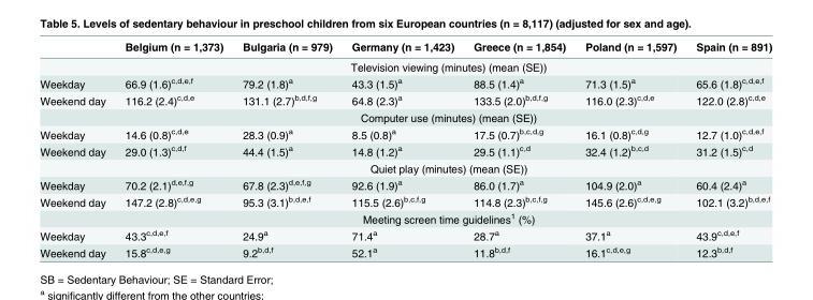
<table><thead><tr><td></td><td>Belgium (n = 1,373)</td><td>Bulgaria (n = 979)</td><td>Germany (n = 1,423)</td><td>Greece (n = 1,854)</td><td>Poland (n = 1,597)</td><td>Spain (n = 891)</td></tr></thead><tbody><tr><td></td><td colspan="6">Television viewing (minutes) (mean (SE))</td></tr><tr><td>Weekday</td><td>66.9 (1.6)<sup>c,d,e,f</sup></td><td>79.2 (1.8)<sup>a</sup></td><td>43.3 (1.5)<sup>a</sup></td><td>88.5 (1.4)<sup>a</sup></td><td>71.3 (1.5)<sup>a</sup></td><td>65.6 (1.8)<sup>c,d,e,f</sup></td></tr><tr><td rowspan="2">Weekend day</td><td>116.2 (2.4)<sup>c,d,e</sup></td><td>131.1 (2.7)<sup>b,d,f,g</sup></td><td>64.8 (2.3)<sup>a</sup></td><td>133.5 (2.0)<sup>b,d,f,g</sup></td><td>116.0 (2.3)<sup>c,d,e</sup></td><td>122.0 (2.8)<sup>c,d,e</sup></td></tr><tr><td colspan="6">Computer use (minutes) (mean (SE))</td></tr><tr><td>Weekday</td><td>14.6 (0.8)<sup>c,d,e</sup></td><td>28.3 (0.9)<sup>a</sup></td><td>8.5 (0.8)<sup>a</sup></td><td>17.5 (0.7)<sup>b,c,d,g</sup></td><td>16.1 (0.8)<sup>c,d,g</sup></td><td>12.7 (1.0)<sup>c,d,e,f</sup></td></tr><tr><td rowspan="2">Weekend day</td><td>29.0 (1.3)<sup>c,d,f</sup></td><td>44.4 (1.5)<sup>a</sup></td><td>14.8 (1.2)<sup>a</sup></td><td>29.5 (1.1)<sup>c,d</sup></td><td>32.4 (1.2)<sup>b,c,d</sup></td><td>31.2 (1.5)<sup>c,d</sup></td></tr><tr><td colspan="6">Quiet play (minutes) (mean (SE))</td></tr><tr><td>Weekday</td><td>70.2 (2.1)<sup>d,e,f,g</sup></td><td>67.8 (2.3)<sup>d,e,f,g</sup></td><td>92.6 (1.9)<sup>a</sup></td><td>86.0 (1.7)<sup>a</sup></td><td>104.9 (2.0)<sup>a</sup></td><td>60.4 (2.4)<sup>a</sup></td></tr><tr><td rowspan="2">Weekend day</td><td>147.2 (2.8)<sup>c,d,e,g</sup></td><td>95.3 (3.1)<sup>b,d,e,f</sup></td><td>115.5 (2.6)<sup>b,c,f,g</sup></td><td>114.8 (2.3)<sup>b,c,f,g</sup></td><td>145.6 (2.6)<sup>c,d,e,g</sup></td><td>102.1 (3.2)<sup>b,d,e,f</sup></td></tr><tr><td colspan="6">Meeting screen time guidelines<sup>1</sup> (%)</td></tr><tr><td>Weekday</td><td>43.3<sup>c,d,e,f</sup></td><td>24.9<sup>a</sup></td><td>71.4<sup>a</sup></td><td>28.7<sup>a</sup></td><td>37.1<sup>a</sup></td><td>43.9<sup>c,d,e,f</sup></td></tr><tr><td>Weekend day</td><td>15.8<sup>c,d,e,g</sup></td><td>9.2<sup>b,d,f</sup></td><td>52.1<sup>a</sup></td><td>11.8<sup>b,d,f</sup></td><td>16.1<sup>c,d,e,g</sup></td><td>12.3<sup>b,d,f</sup></td></tr></tbody></table>